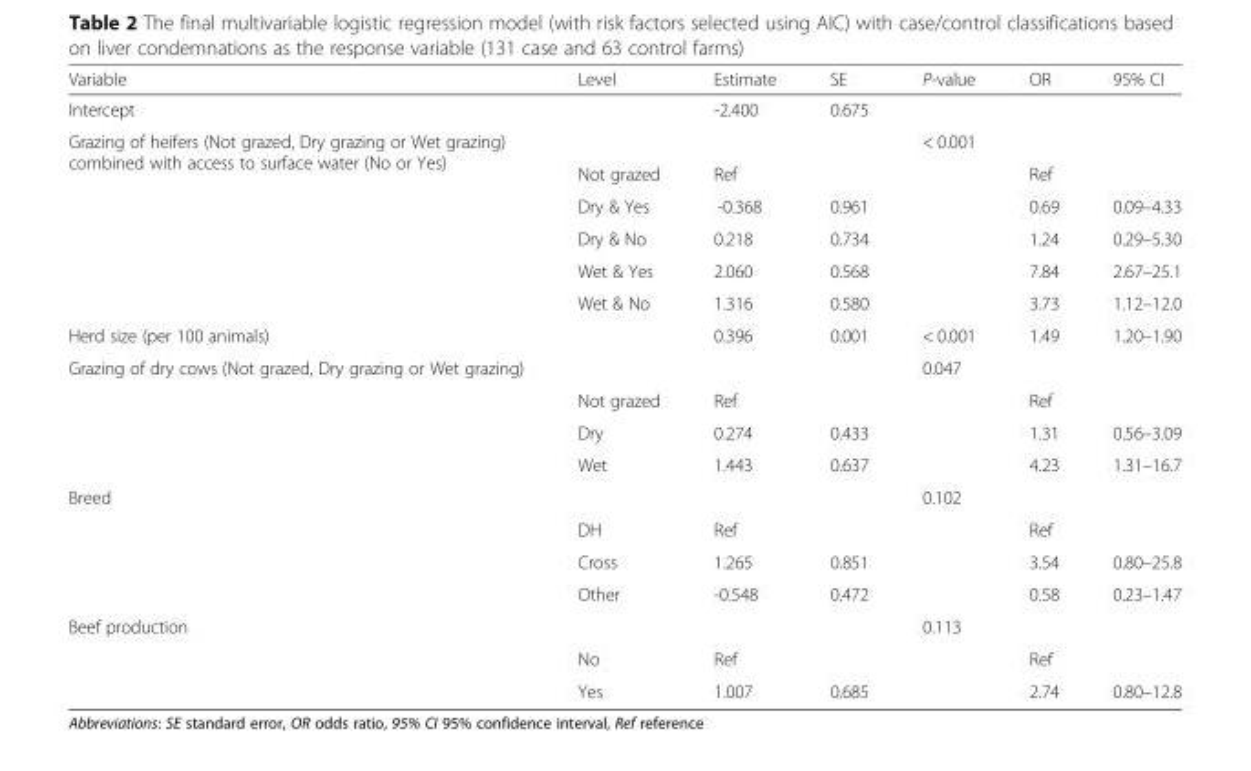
<table><thead><tr><td>Variable</td><td>Level</td><td>Estimate</td><td>SE</td><td>P-value</td><td>OR</td><td>95% CI</td></tr></thead><tbody><tr><td>Intercept</td><td></td><td>-2.400</td><td>0.675</td><td></td><td></td><td></td></tr><tr><td rowspan="6">Grazing of heifers (Not grazed, Dry grazing or Wet grazing) combined with access to surface water (No or Yes)</td><td></td><td></td><td></td><td>&lt; 0.001</td><td></td><td></td></tr><tr><td>Not grazed</td><td>Ref</td><td></td><td></td><td>Ref</td><td></td></tr><tr><td>Dry &amp; Yes</td><td>-0.368</td><td>0.961</td><td></td><td>0.69</td><td>0.09–4.33</td></tr><tr><td>Dry &amp; No</td><td>0.218</td><td>0.734</td><td></td><td>1.24</td><td>0.29–5.30</td></tr><tr><td>Wet &amp; Yes</td><td>2.060</td><td>0.568</td><td></td><td>7.84</td><td>2.67–25.1</td></tr><tr><td>Wet &amp; No</td><td>1.316</td><td>0.580</td><td></td><td>3.73</td><td>1.12–12.0</td></tr><tr><td>Herd size (per 100 animals)</td><td></td><td>0.396</td><td>0.001</td><td>&lt; 0.001</td><td>1.49</td><td>1.20–1.90</td></tr><tr><td rowspan="4">Grazing of dry cows (Not grazed, Dry grazing or Wet grazing)</td><td></td><td></td><td></td><td>0.047</td><td></td><td></td></tr><tr><td>Not grazed</td><td>Ref</td><td></td><td></td><td>Ref</td><td></td></tr><tr><td>Dry</td><td>0.274</td><td>0.433</td><td></td><td>1.31</td><td>0.56–3.09</td></tr><tr><td>Wet</td><td>1.443</td><td>0.637</td><td></td><td>4.23</td><td>1.31–16.7</td></tr><tr><td rowspan="4">Breed</td><td></td><td></td><td></td><td>0.102</td><td></td><td></td></tr><tr><td>DH</td><td>Ref</td><td></td><td></td><td>Ref</td><td></td></tr><tr><td>Cross</td><td>1.265</td><td>0.851</td><td></td><td>3.54</td><td>0.80–25.8</td></tr><tr><td>Other</td><td>-0.548</td><td>0.472</td><td></td><td>0.58</td><td>0.23–1.47</td></tr><tr><td rowspan="3">Beef production</td><td></td><td></td><td></td><td>0.113</td><td></td><td></td></tr><tr><td>No</td><td>Ref</td><td></td><td></td><td>Ref</td><td></td></tr><tr><td>Yes</td><td>1.007</td><td>0.685</td><td></td><td>2.74</td><td>0.80–12.8</td></tr></tbody></table>